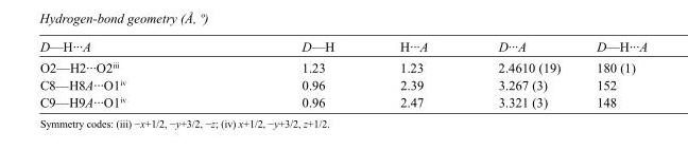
<table><tbody><tr><td>D—H···A</td><td>D—H</td><td>H···A</td><td>D···A</td><td>D—H···A</td></tr><tr><td>O2—H2···O2<sup>iii</sup></td><td>1.23</td><td>1.23</td><td>2.4610 (19)</td><td>180 (1)</td></tr><tr><td>C8—H8A···O1<sup>iv</sup></td><td>0.96</td><td>2.39</td><td>3.267 (3)</td><td>152</td></tr><tr><td>C9—H9A···O1<sup>iv</sup></td><td>0.96</td><td>2.47</td><td>3.321 (3)</td><td>148</td></tr></tbody></table>